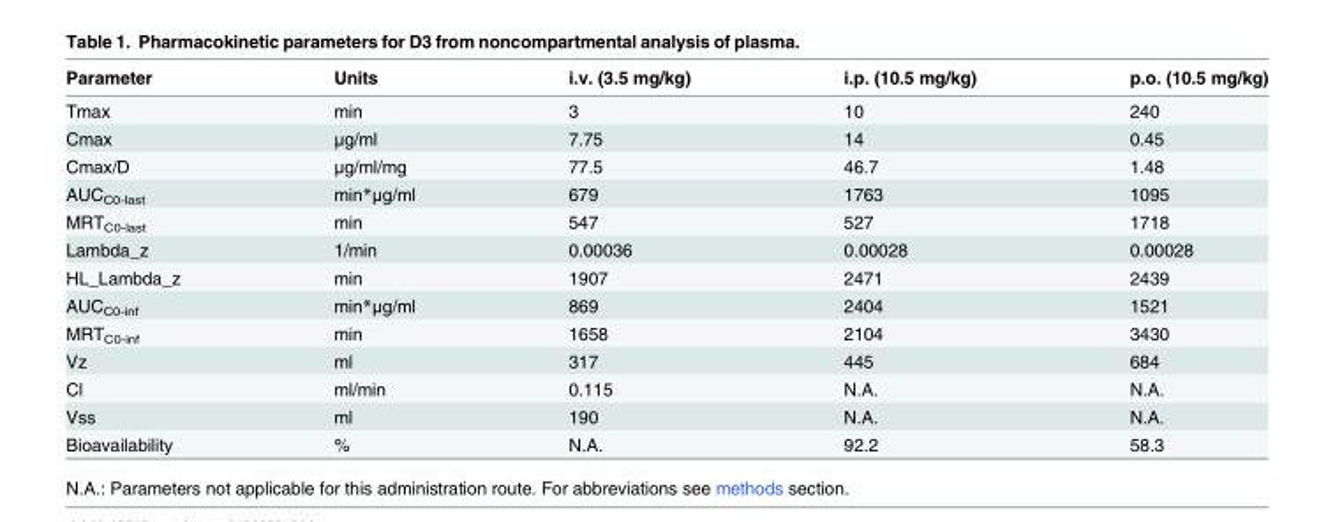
<table><thead><tr><td>Parameter</td><td>Units</td><td>i.v. (3.5 mg/kg)</td><td>i.p. (10.5 mg/kg)</td><td>p.o. (10.5 mg/kg)</td></tr></thead><tbody><tr><td>Tmax</td><td>min</td><td>3</td><td>10</td><td>240</td></tr><tr><td>Cmax</td><td>μg/ml</td><td>7.75</td><td>14</td><td>0.45</td></tr><tr><td>Cmax/D</td><td>μg/ml/mg</td><td>77.5</td><td>46.7</td><td>1.48</td></tr><tr><td>AUC<sub>C0-last</sub></td><td>min*μg/ml</td><td>679</td><td>1763</td><td>1095</td></tr><tr><td>MRT<sub>C0-last</sub></td><td>min</td><td>547</td><td>527</td><td>1718</td></tr><tr><td>Lambda_z</td><td>1/min</td><td>0.00036</td><td>0.00028</td><td>0.00028</td></tr><tr><td>HL_Lambda_z</td><td>min</td><td>1907</td><td>2471</td><td>2439</td></tr><tr><td>AUC<sub>C0-inf</sub></td><td>min*μg/ml</td><td>869</td><td>2404</td><td>1521</td></tr><tr><td>MRT<sub>C0-inf</sub></td><td>min</td><td>1658</td><td>2104</td><td>3430</td></tr><tr><td>Vz</td><td>ml</td><td>317</td><td>445</td><td>684</td></tr><tr><td>Cl</td><td>ml/min</td><td>0.115</td><td>N.A.</td><td>N.A.</td></tr><tr><td>Vss</td><td>ml</td><td>190</td><td>N.A.</td><td>N.A.</td></tr><tr><td>Bioavailability</td><td>%</td><td>N.A.</td><td>92.2</td><td>58.3</td></tr></tbody></table>